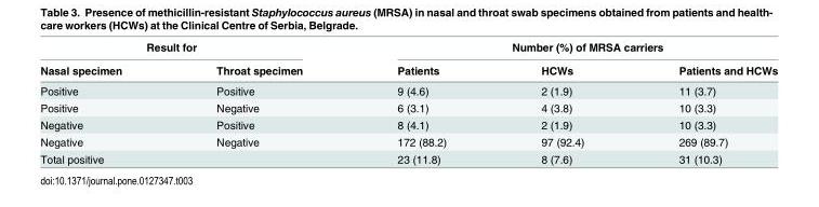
<table><thead><tr><td colspan="2">Result for</td><td colspan="3">Number (%) of MRSA carriers</td></tr><tr><td>Nasal specimen</td><td>Throat specimen</td><td>Patients</td><td>HCWs</td><td>Patients and HCWs</td></tr></thead><tbody><tr><td>Positive</td><td>Positive</td><td>9 (4.6)</td><td>2 (1.9)</td><td>11 (3.7)</td></tr><tr><td>Positive</td><td>Negative</td><td>6 (3.1)</td><td>4 (3.8)</td><td>10 (3.3)</td></tr><tr><td>Negative</td><td>Positive</td><td>8 (4.1)</td><td>2 (1.9)</td><td>10 (3.3)</td></tr><tr><td>Negative</td><td>Negative</td><td>172 (88.2)</td><td>97 (92.4)</td><td>269 (89.7)</td></tr><tr><td>Total positive</td><td></td><td>23 (11.8)</td><td>8 (7.6)</td><td>31 (10.3)</td></tr></tbody></table>